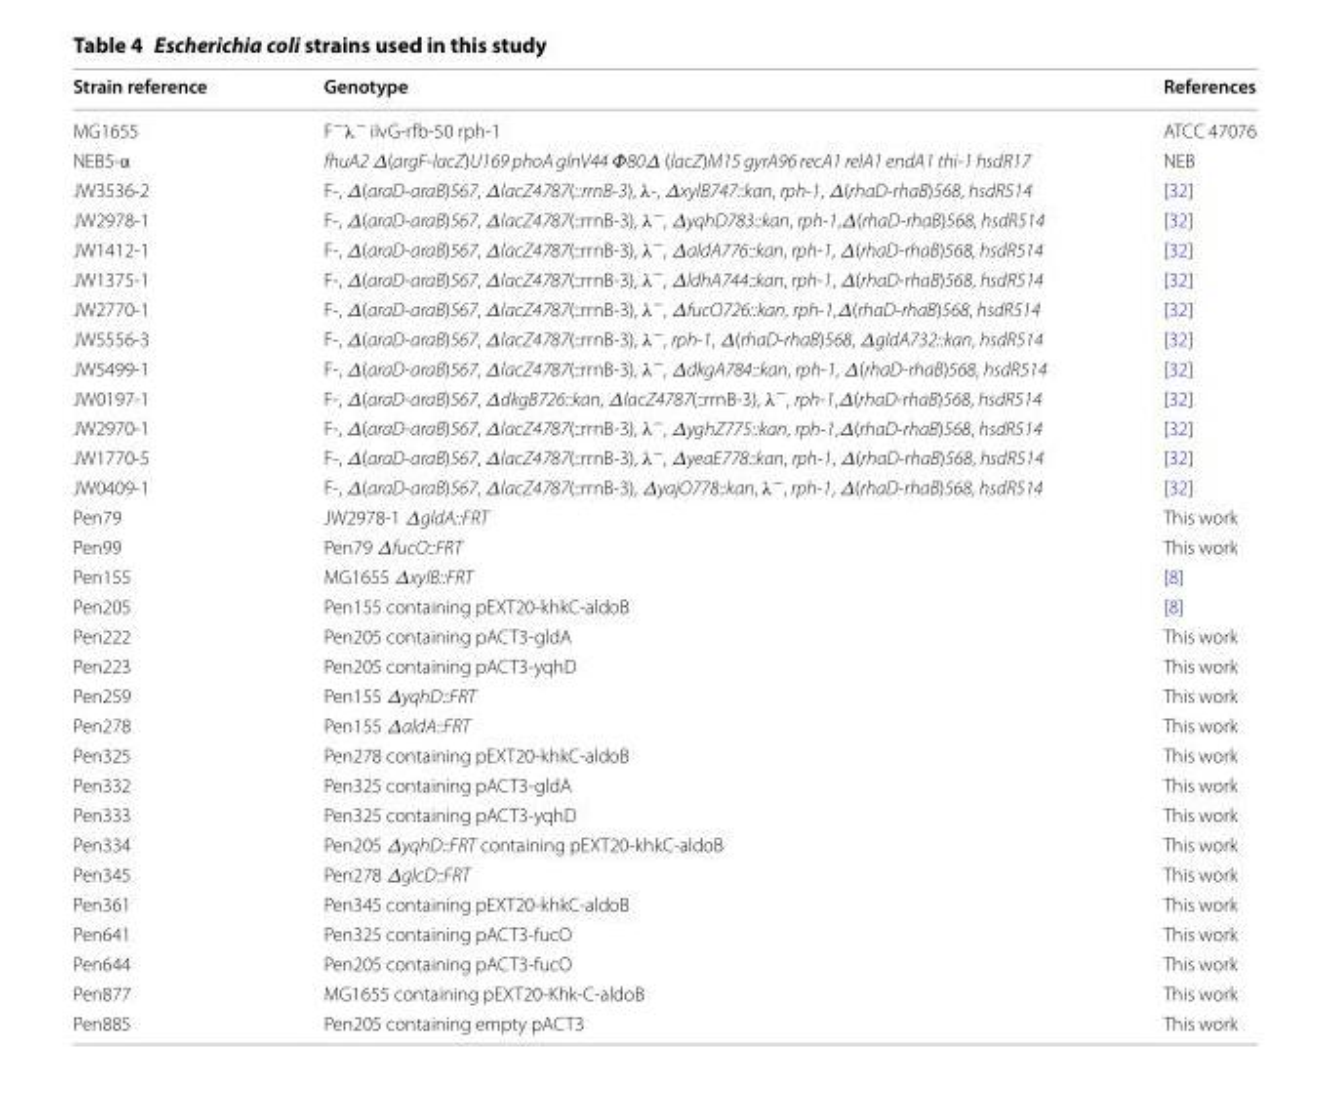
<table><thead><tr><td>Strain reference</td><td>Genotype</td><td>References</td></tr></thead><tbody><tr><td>MG1655</td><td>F<sup>−</sup>λ<sup>−</sup> ilvG-rfb-50 rph-1</td><td>ATCC 47076</td></tr><tr><td>NEB5-α</td><td>fhuA2 Δ(argF-lacZ)U169 phoA glnV44 Φ80Δ (lacZ)M15 gyrA96 recA1 relA1 endA1 thi-1 hsdR17</td><td>NEB</td></tr><tr><td>JW3536-2</td><td>F-, Δ(araD-araB)567, ΔlacZ4787(::rrnB-3), λ-, ΔxylB747::kan, rph-1, Δ(rhaD-rhaB)568, hsdR514</td><td>[32]</td></tr><tr><td>JW2978-1</td><td>F-, Δ(araD-araB)567, ΔlacZ4787(::rrnB-3), λ<sup>−</sup>, ΔyqhD783::kan, rph-1,Δ(rhaD-rhaB)568, hsdR514</td><td>[32]</td></tr><tr><td>JW1412-1</td><td>F-, Δ(araD-araB)567, ΔlacZ4787(::rrnB-3), λ<sup>−</sup>, ΔaldA776::kan, rph-1, Δ(rhaD-rhaB)568, hsdR514</td><td>[32]</td></tr><tr><td>JW1375-1</td><td>F-, Δ(araD-araB)567, ΔlacZ4787(::rrnB-3), λ<sup>−</sup>, ΔldhA744::kan, rph-1, Δ(rhaD-rhaB)568, hsdR514</td><td>[32]</td></tr><tr><td>JW2770-1</td><td>F-, Δ(araD-araB)567, ΔlacZ4787(::rrnB-3), λ<sup>−</sup>, ΔfucO726::kan, rph-1,Δ(rhaD-rhaB)568, hsdR514</td><td>[32]</td></tr><tr><td>JW5556-3</td><td>F-, Δ(araD-araB)567, ΔlacZ4787(::rrnB-3), λ<sup>−</sup>, rph-1, Δ(rhaD-rhaB)568, ΔgldA732::kan, hsdR514</td><td>[32]</td></tr><tr><td>JW5499-1</td><td>F-, Δ(araD-araB)567, ΔlacZ4787(::rrnB-3), λ<sup>−</sup>, ΔdkgA784::kan, rph-1, Δ(rhaD-rhaB)568, hsdR514</td><td>[32]</td></tr><tr><td>JW0197-1</td><td>F-, Δ(araD-araB)567, ΔdkgB726::kan, ΔlacZ4787(::rrnB-3), λ<sup>−</sup>, rph-1,Δ(rhaD-rhaB)568, hsdR514</td><td>[32]</td></tr><tr><td>JW2970-1</td><td>F-, Δ(araD-araB)567, ΔlacZ4787(::rrnB-3), λ<sup>−</sup>, ΔyghZ775::kan, rph-1,Δ(rhaD-rhaB)568, hsdR514</td><td>[32]</td></tr><tr><td>JW1770-5</td><td>F-, Δ(araD-araB)567, ΔlacZ4787(::rrnB-3), λ<sup>−</sup>, ΔyeaE778::kan, rph-1, Δ(rhaD-rhaB)568, hsdR514</td><td>[32]</td></tr><tr><td>JW0409-1</td><td>F-, Δ(araD-araB)567, ΔlacZ4787(::rrnB-3), ΔyajO778::kan, λ<sup>−</sup>, rph-1, Δ(rhaD-rhaB)568, hsdR514</td><td>[32]</td></tr><tr><td>Pen79</td><td>JW2978-1 ΔgldA::FRT</td><td>This work</td></tr><tr><td>Pen99</td><td>Pen79 ΔfucO::FRT</td><td>This work</td></tr><tr><td>Pen155</td><td>MG1655 ΔxylB::FRT</td><td>[8]</td></tr><tr><td>Pen205</td><td>Pen155 containing pEXT20-khkC-aldoB</td><td>[8]</td></tr><tr><td>Pen222</td><td>Pen205 containing pACT3-gldA</td><td>This work</td></tr><tr><td>Pen223</td><td>Pen205 containing pACT3-yqhD</td><td>This work</td></tr><tr><td>Pen259</td><td>Pen155 ΔyqhD::FRT</td><td>This work</td></tr><tr><td>Pen278</td><td>Pen155 ΔaldA::FRT</td><td>This work</td></tr><tr><td>Pen325</td><td>Pen278 containing pEXT20-khkC-aldoB</td><td>This work</td></tr><tr><td>Pen332</td><td>Pen325 containing pACT3-gldA</td><td>This work</td></tr><tr><td>Pen333</td><td>Pen325 containing pACT3-yqhD</td><td>This work</td></tr><tr><td>Pen334</td><td>Pen205 ΔyqhD::FRT containing pEXT20-khkC-aldoB</td><td>This work</td></tr><tr><td>Pen345</td><td>Pen278 ΔglcD::FRT</td><td>This work</td></tr><tr><td>Pen361</td><td>Pen345 containing pEXT20-khkC-aldoB</td><td>This work</td></tr><tr><td>Pen641</td><td>Pen325 containing pACT3-fucO</td><td>This work</td></tr><tr><td>Pen644</td><td>Pen205 containing pACT3-fucO</td><td>This work</td></tr><tr><td>Pen877</td><td>MG1655 containing pEXT20-Khk-C-aldoB</td><td>This work</td></tr><tr><td>Pen885</td><td>Pen205 containing empty pACT3</td><td>This work</td></tr></tbody></table>